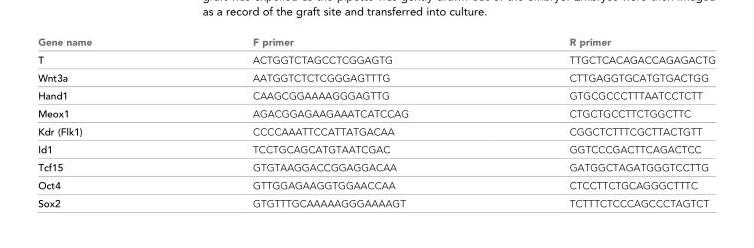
<table><thead><tr><td>Gene name</td><td>F primer</td><td>R primer</td></tr></thead><tbody><tr><td>T</td><td>ACTGGTCTAGCCTCGGAGTG</td><td>TTGCTCACAGACCAGAGACTG</td></tr><tr><td>Wnt3a</td><td>AATGGTCTCTCGGGAGTTTG</td><td>CTTGAGGTGCATGTGACTGG</td></tr><tr><td>Hand1</td><td>CAAGCGGAAAAGGGAGTTG</td><td>GTGCGCCCTTTAATCCTCTT</td></tr><tr><td>Meox1</td><td>AGACGGAGAAGAAATCATCCAG</td><td>CTGCTGCCTTCTGGCTTC</td></tr><tr><td>Kdr (Flk1)</td><td>CCCCAAATTCCATTATGACAA</td><td>CGGCTCTTTCGCTTACTGTT</td></tr><tr><td>Id1</td><td>TCCTGCAGCATGTAATCGAC</td><td>GGTCCCGACTTCAGACTCC</td></tr><tr><td>Tcf15</td><td>GTGTAAGGACCGGAGGACAA</td><td>GATGGCTAGATGGGTCCTTG</td></tr><tr><td>Oct4</td><td>GTTGGAGAAGGTGGAACCAA</td><td>CTCCTTCTGCAGGGCTTTC</td></tr><tr><td>Sox2</td><td>GTGTTTGCAAAAAGGGAAAAGT</td><td>TCTTTCTCCCAGCCCTAGTCT</td></tr></tbody></table>